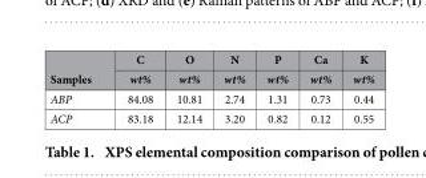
<table><thead><tr><td rowspan="2">Samples</td><td rowspan="2">C wt%</td><td rowspan="2">O wt%</td><td rowspan="2">N wt%</td><td rowspan="2">P wt%</td><td rowspan="2">Ca wt%</td><td rowspan="2">K wt%</td></tr><tr></tr></thead><tbody><tr><td>ABP</td><td>84.08</td><td>10.81</td><td>2.74</td><td>1.31</td><td>0.73</td><td>0.44</td></tr><tr><td>ACP</td><td>83.18</td><td>12.14</td><td>3.20</td><td>0.82</td><td>0.12</td><td>0.55</td></tr></tbody></table>